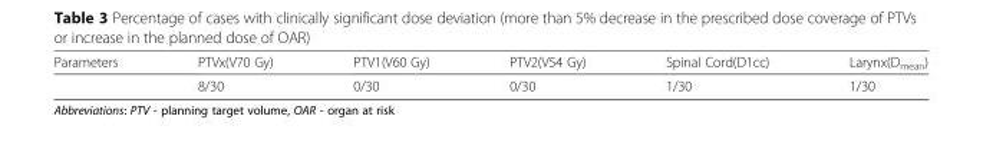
<table><thead><tr><td>Parameters</td><td>PTVx(V70 Gy)</td><td>PTV1(V60 Gy)</td><td>PTV2(V54 Gy)</td><td>Spinal Cord(D1cc)</td><td>Larynx(D<sub>mean</sub>)</td></tr></thead><tbody><tr><td></td><td>8/30</td><td>0/30</td><td>0/30</td><td>1/30</td><td>1/30</td></tr></tbody></table>